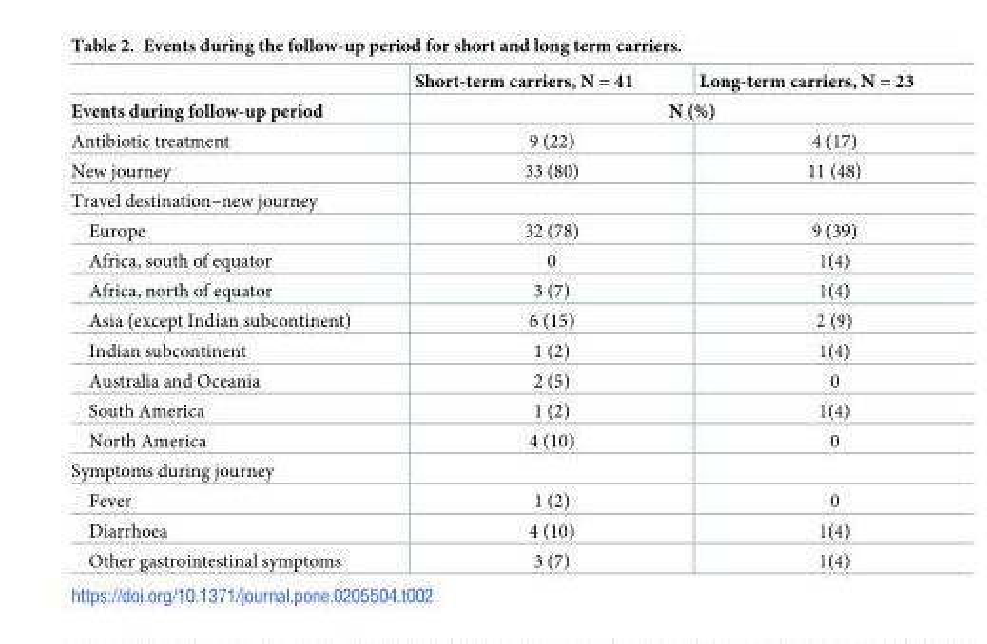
<table><thead><tr><td rowspan="2">Events during follow-up period</td><td>Short-term carriers, N = 41</td><td>Long-term carriers, N = 23</td></tr><tr><td colspan="2">N (%)</td></tr></thead><tbody><tr><td>Antibiotic treatment</td><td>9 (22)</td><td>4 (17)</td></tr><tr><td>New journey</td><td>33 (80)</td><td>11 (48)</td></tr><tr><td colspan="3">Travel destination–new journey</td></tr><tr><td>Europe</td><td>32 (78)</td><td>9 (39)</td></tr><tr><td>Africa, south of equator</td><td>0</td><td>1(4)</td></tr><tr><td>Africa, north of equator</td><td>3 (7)</td><td>1(4)</td></tr><tr><td>Asia (except Indian subcontinent)</td><td>6 (15)</td><td>2 (9)</td></tr><tr><td>Indian subcontinent</td><td>1 (2)</td><td>1(4)</td></tr><tr><td>Australia and Oceania</td><td>2 (5)</td><td>0</td></tr><tr><td>South America</td><td>1 (2)</td><td>1(4)</td></tr><tr><td>North America</td><td>4 (10)</td><td>0</td></tr><tr><td colspan="3">Symptoms during journey</td></tr><tr><td>Fever</td><td>1 (2)</td><td>0</td></tr><tr><td>Diarrhoea</td><td>4 (10)</td><td>1(4)</td></tr><tr><td>Other gastrointestinal symptoms</td><td>3 (7)</td><td>1(4)</td></tr></tbody></table>